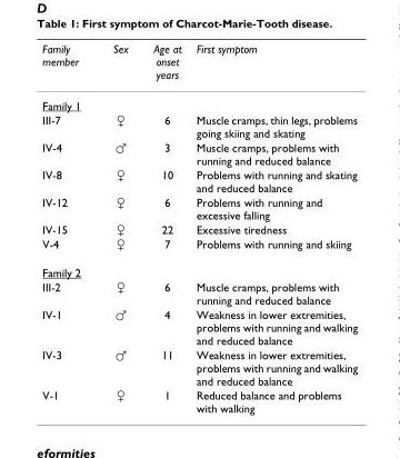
<table><thead><tr><td>Family member</td><td>Sex</td><td>Age at onset years</td><td>First symptom</td></tr></thead><tbody><tr><td colspan="4">Family 1</td></tr><tr><td>III-7</td><td>♀</td><td>6</td><td>Muscle cramps, thin legs, problems going skiing and skating</td></tr><tr><td>IV-4</td><td>♂</td><td>3</td><td>Muscle cramps, problems with running and reduced balance</td></tr><tr><td>IV-8</td><td>♀</td><td>10</td><td>Problems with running and skating and reduced balance</td></tr><tr><td>IV-12</td><td>♀</td><td>6</td><td>Problems with running and excessive falling</td></tr><tr><td>IV-15</td><td>♀</td><td>22</td><td>Excessive tiredness</td></tr><tr><td>V-4</td><td>♀</td><td>7</td><td>Problems with running and skiing</td></tr><tr><td colspan="4">Family 2</td></tr><tr><td>III-2</td><td>♀</td><td>6</td><td>Muscle cramps, problems with running and reduced balance</td></tr><tr><td>IV-1</td><td>♂</td><td>4</td><td>Weakness in lower extremities, problems with running and walking and reduced balance</td></tr><tr><td>IV-3</td><td>♂</td><td>11</td><td>Weakness in lower extremities, problems with running and walking and reduced balance</td></tr><tr><td>V-1</td><td>♀</td><td>1</td><td>Reduced balance and problems with walking</td></tr></tbody></table>